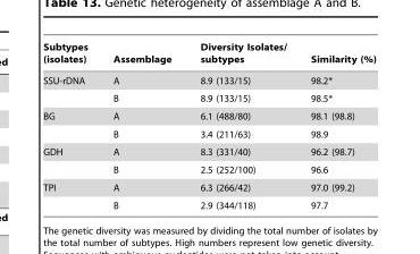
<table><thead><tr><td>Subtypes (isolates)</td><td>Assemblage</td><td>Diversity Isolates/ subtypes</td><td>Similarity (%)</td></tr></thead><tbody><tr><td rowspan="2">SSU-rDNA</td><td>A</td><td>8.9 (133/15)</td><td>98.2*</td></tr><tr><td>B</td><td>8.9 (133/15)</td><td>98.5*</td></tr><tr><td rowspan="2">BG</td><td>A</td><td>6.1 (488/80)</td><td>98.1 (98.8)</td></tr><tr><td>B</td><td>3.4 (211/63)</td><td>98.9</td></tr><tr><td rowspan="2">GDH</td><td>A</td><td>8.3 (331/40)</td><td>96.2 (98.7)</td></tr><tr><td>B</td><td>2.5 (252/100)</td><td>96.6</td></tr><tr><td rowspan="2">TPI</td><td>A</td><td>6.3 (266/42)</td><td>97.0 (99.2)</td></tr><tr><td>B</td><td>2.9 (344/118)</td><td>97.7</td></tr></tbody></table>